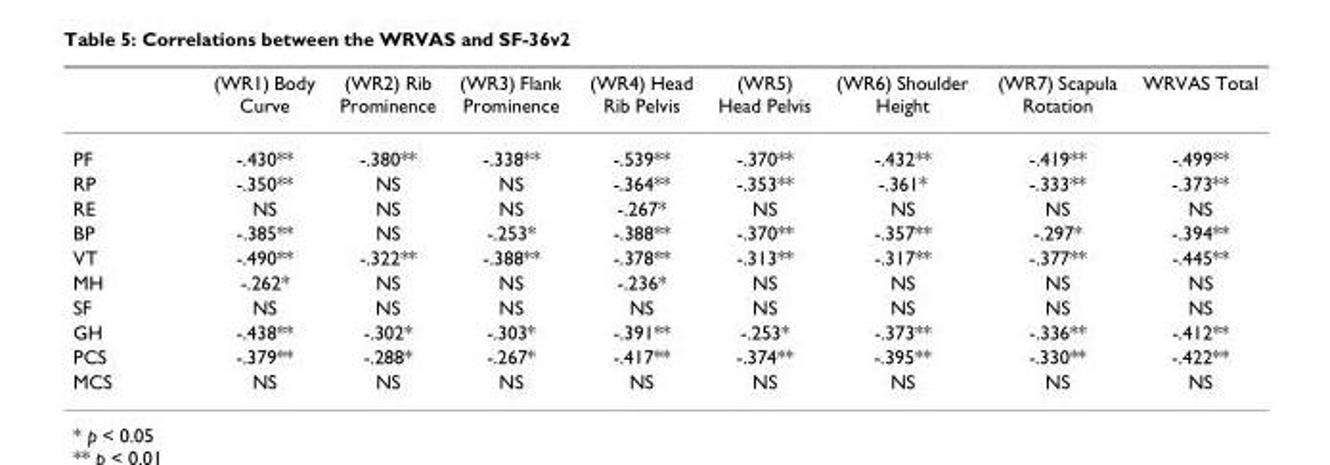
<table><thead><tr><td></td><td>(WR1) Body Curve</td><td>(WR2) Rib Prominence</td><td>(WR3) Flank Prominence</td><td>(WR4) Head Rib Pelvis</td><td>(WR5) Head Pelvis</td><td>(WR6) Shoulder Height</td><td>(WR7) Scapula Rotation</td><td>WRVAS Total</td></tr></thead><tbody><tr><td>PF</td><td>-.430**</td><td>-.380**</td><td>-.338**</td><td>-.539**</td><td>-.370**</td><td>-.432**</td><td>-.419**</td><td>-.499**</td></tr><tr><td>RP</td><td>-.350**</td><td>NS</td><td>NS</td><td>-.364**</td><td>-.353**</td><td>-.361*</td><td>-.333**</td><td>-.373**</td></tr><tr><td>RE</td><td>NS</td><td>NS</td><td>NS</td><td>-.267*</td><td>NS</td><td>NS</td><td>NS</td><td>NS</td></tr><tr><td>BP</td><td>-.385**</td><td>NS</td><td>-.253*</td><td>-.388**</td><td>-.370**</td><td>-.357**</td><td>-.297*</td><td>-.394**</td></tr><tr><td>VT</td><td>-.490**</td><td>-.322**</td><td>-.388**</td><td>-.378**</td><td>-.313**</td><td>-.317**</td><td>-.377**</td><td>-.445**</td></tr><tr><td>MH</td><td>-.262*</td><td>NS</td><td>NS</td><td>-.236*</td><td>NS</td><td>NS</td><td>NS</td><td>NS</td></tr><tr><td>SF</td><td>NS</td><td>NS</td><td>NS</td><td>NS</td><td>NS</td><td>NS</td><td>NS</td><td>NS</td></tr><tr><td>GH</td><td>-.438**</td><td>-.302*</td><td>-.303*</td><td>-.391**</td><td>-.253*</td><td>-.373**</td><td>-.336**</td><td>-.412**</td></tr><tr><td>PCS</td><td>-.379**</td><td>-.288*</td><td>-.267*</td><td>-.417**</td><td>-.374**</td><td>-.395**</td><td>-.330**</td><td>-.422**</td></tr><tr><td>MCS</td><td>NS</td><td>NS</td><td>NS</td><td>NS</td><td>NS</td><td>NS</td><td>NS</td><td>NS</td></tr></tbody></table>